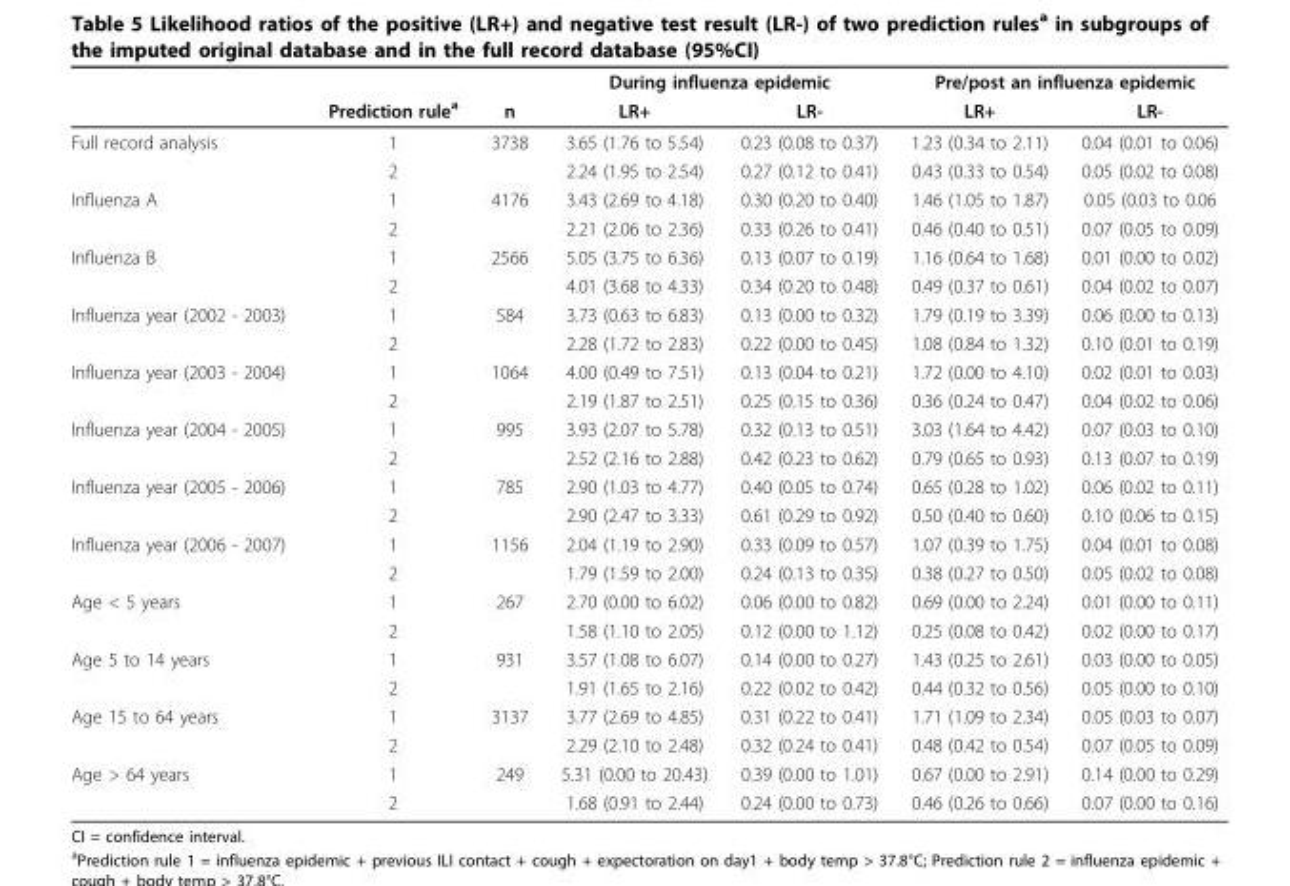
<table><thead><tr><td rowspan="2"></td><td rowspan="2">Prediction rule<sup>a</sup></td><td rowspan="2">n</td><td colspan="2">During influenza epidemic</td><td colspan="2">Pre/post an influenza epidemic</td></tr><tr><td>LR+</td><td>LR-</td><td>LR+</td><td>LR-</td></tr></thead><tbody><tr><td rowspan="2">Full record analysis</td><td>1</td><td>3738</td><td>3.65 (1.76 to 5.54)</td><td>0.23 (0.08 to 0.37)</td><td>1.23 (0.34 to 2.11)</td><td>0.04 (0.01 to 0.06)</td></tr><tr><td>2</td><td></td><td>2.24 (1.95 to 2.54)</td><td>0.27 (0.12 to 0.41)</td><td>0.43 (0.33 to 0.54)</td><td>0.05 (0.02 to 0.08)</td></tr><tr><td rowspan="2">Influenza A</td><td>1</td><td>4176</td><td>3.43 (2.69 to 4.18)</td><td>0.30 (0.20 to 0.40)</td><td>1.46 (1.05 to 1.87)</td><td>0.05 (0.03 to 0.06</td></tr><tr><td>2</td><td></td><td>2.21 (2.06 to 2.36)</td><td>0.33 (0.26 to 0.41)</td><td>0.46 (0.40 to 0.51)</td><td>0.07 (0.05 to 0.09)</td></tr><tr><td rowspan="2">Influenza B</td><td>1</td><td>2566</td><td>5.05 (3.75 to 6.36)</td><td>0.13 (0.07 to 0.19)</td><td>1.16 (0.64 to 1.68)</td><td>0.01 (0.00 to 0.02)</td></tr><tr><td>2</td><td></td><td>4.01 (3.68 to 4.33)</td><td>0.34 (0.20 to 0.48)</td><td>0.49 (0.37 to 0.61)</td><td>0.04 (0.02 to 0.07)</td></tr><tr><td rowspan="2">Influenza year (2002 - 2003)</td><td>1</td><td>584</td><td>3.73 (0.63 to 6.83)</td><td>0.13 (0.00 to 0.32)</td><td>1.79 (0.19 to 3.39)</td><td>0.06 (0.00 to 0.13)</td></tr><tr><td>2</td><td></td><td>2.28 (1.72 to 2.83)</td><td>0.22 (0.00 to 0.45)</td><td>1.08 (0.84 to 1.32)</td><td>0.10 (0.01 to 0.19)</td></tr><tr><td rowspan="2">Influenza year (2003 - 2004)</td><td>1</td><td>1064</td><td>4.00 (0.49 to 7.51)</td><td>0.13 (0.04 to 0.21)</td><td>1.72 (0.00 to 4.10)</td><td>0.02 (0.01 to 0.03)</td></tr><tr><td>2</td><td></td><td>2.19 (1.87 to 2.51)</td><td>0.25 (0.15 to 0.36)</td><td>0.36 (0.24 to 0.47)</td><td>0.04 (0.02 to 0.06)</td></tr><tr><td rowspan="2">Influenza year (2004 - 2005)</td><td>1</td><td>995</td><td>3.93 (2.07 to 5.78)</td><td>0.32 (0.13 to 0.51)</td><td>3.03 (1.64 to 4.42)</td><td>0.07 (0.03 to 0.10)</td></tr><tr><td>2</td><td></td><td>2.52 (2.16 to 2.88)</td><td>0.42 (0.23 to 0.62)</td><td>0.79 (0.65 to 0.93)</td><td>0.13 (0.07 to 0.19)</td></tr><tr><td rowspan="2">Influenza year (2005 - 2006)</td><td>1</td><td>785</td><td>2.90 (1.03 to 4.77)</td><td>0.40 (0.05 to 0.74)</td><td>0.65 (0.28 to 1.02)</td><td>0.06 (0.02 to 0.11)</td></tr><tr><td>2</td><td></td><td>2.90 (2.47 to 3.33)</td><td>0.61 (0.29 to 0.92)</td><td>0.50 (0.40 to 0.60)</td><td>0.10 (0.06 to 0.15)</td></tr><tr><td rowspan="2">Influenza year (2006 - 2007)</td><td>1</td><td>1156</td><td>2.04 (1.19 to 2.90)</td><td>0.33 (0.09 to 0.57)</td><td>1.07 (0.39 to 1.75)</td><td>0.04 (0.01 to 0.08)</td></tr><tr><td>2</td><td></td><td>1.79 (1.59 to 2.00)</td><td>0.24 (0.13 to 0.35)</td><td>0.38 (0.27 to 0.50)</td><td>0.05 (0.02 to 0.08)</td></tr><tr><td rowspan="2">Age &lt; 5 years</td><td>1</td><td>267</td><td>2.70 (0.00 to 6.02)</td><td>0.06 (0.00 to 0.82)</td><td>0.69 (0.00 to 2.24)</td><td>0.01 (0.00 to 0.11)</td></tr><tr><td>2</td><td></td><td>1.58 (1.10 to 2.05)</td><td>0.12 (0.00 to 1.12)</td><td>0.25 (0.08 to 0.42)</td><td>0.02 (0.00 to 0.17)</td></tr><tr><td rowspan="2">Age 5 to 14 years</td><td>1</td><td>931</td><td>3.57 (1.08 to 6.07)</td><td>0.14 (0.00 to 0.27)</td><td>1.43 (0.25 to 2.61)</td><td>0.03 (0.00 to 0.05)</td></tr><tr><td>2</td><td></td><td>1.91 (1.65 to 2.16)</td><td>0.22 (0.02 to 0.42)</td><td>0.44 (0.32 to 0.56)</td><td>0.05 (0.00 to 0.10)</td></tr><tr><td rowspan="2">Age 15 to 64 years</td><td>1</td><td>3137</td><td>3.77 (2.69 to 4.85)</td><td>0.31 (0.22 to 0.41)</td><td>1.71 (1.09 to 2.34)</td><td>0.05 (0.03 to 0.07)</td></tr><tr><td>2</td><td></td><td>2.29 (2.10 to 2.48)</td><td>0.32 (0.24 to 0.41)</td><td>0.48 (0.42 to 0.54)</td><td>0.07 (0.05 to 0.09)</td></tr><tr><td rowspan="2">Age &gt; 64 years</td><td>1</td><td>249</td><td>5.31 (0.00 to 20.43)</td><td>0.39 (0.00 to 1.01)</td><td>0.67 (0.00 to 2.91)</td><td>0.14 (0.00 to 0.29)</td></tr><tr><td>2</td><td></td><td>1.68 (0.91 to 2.44)</td><td>0.24 (0.00 to 0.73)</td><td>0.46 (0.26 to 0.66)</td><td>0.07 (0.00 to 0.16)</td></tr></tbody></table>